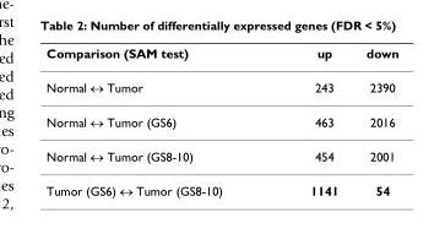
<table><thead><tr><td>Comparison (SAM test)</td><td>up</td><td>down</td></tr></thead><tbody><tr><td>Normal ↔ Tumor</td><td>243</td><td>2390</td></tr><tr><td>Normal ↔ Tumor (GS6)</td><td>463</td><td>2016</td></tr><tr><td>Normal ↔ Tumor (GS8-10)</td><td>454</td><td>2001</td></tr><tr><td>Tumor (GS6) ↔ Tumor (GS8-10)</td><td>1141</td><td>54</td></tr></tbody></table>